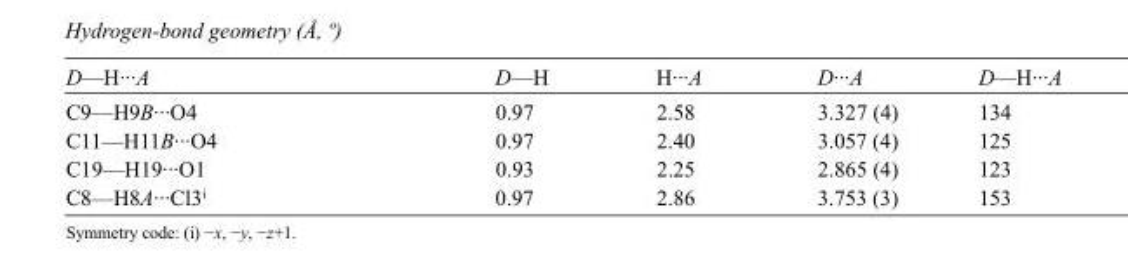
<table><tbody><tr><td>D—H···A</td><td>D—H</td><td>H···A</td><td>D···A</td><td>D—H···A</td></tr><tr><td>C9—H9B···O4</td><td>0.97</td><td>2.58</td><td>3.327 (4)</td><td>134</td></tr><tr><td>C11—H11B···O4</td><td>0.97</td><td>2.40</td><td>3.057 (4)</td><td>125</td></tr><tr><td>C19—H19···O1</td><td>0.93</td><td>2.25</td><td>2.865 (4)</td><td>123</td></tr><tr><td>C8—H8A···Cl3<sup>i</sup></td><td>0.97</td><td>2.86</td><td>3.753 (3)</td><td>153</td></tr></tbody></table>